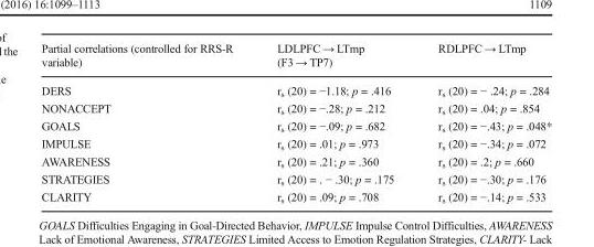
<table><thead><tr><td>Partial correlations (controlled for RRS-R variable)</td><td>LDLPFC → LTmp (F3 → TP7)</td><td>RDLPFC → LTmp</td></tr></thead><tbody><tr><td>DERS</td><td>r<sub>s</sub> (20) = −1.18; p = .416</td><td>r<sub>s</sub> (20) = − .24; p = .284</td></tr><tr><td>NONACCEPT</td><td>r<sub>s</sub> (20) = −.28; p = .212</td><td>r<sub>s</sub> (20) = .04; p = .854</td></tr><tr><td>GOALS</td><td>r<sub>s</sub> (20) = −.09; p = .682</td><td>r<sub>s</sub> (20) = −.43; p = .048*</td></tr><tr><td>IMPULSE</td><td>r<sub>s</sub> (20) = .01; p = .973</td><td>r<sub>s</sub> (20) = −.34; p = .072</td></tr><tr><td>AWARENESS</td><td>r<sub>s</sub> (20) = .21; p = .360</td><td>r<sub>s</sub> (20) = .2; p = .660</td></tr><tr><td>STRATEGIES</td><td>r<sub>s</sub> (20) = . − .30; p = .175</td><td>r<sub>s</sub> (20) = −.30; p = .176</td></tr><tr><td>CLARITY</td><td>r<sub>s</sub> (20) = .09; p = .708</td><td>r<sub>s</sub> (20) = −.14; p = .533</td></tr></tbody></table>